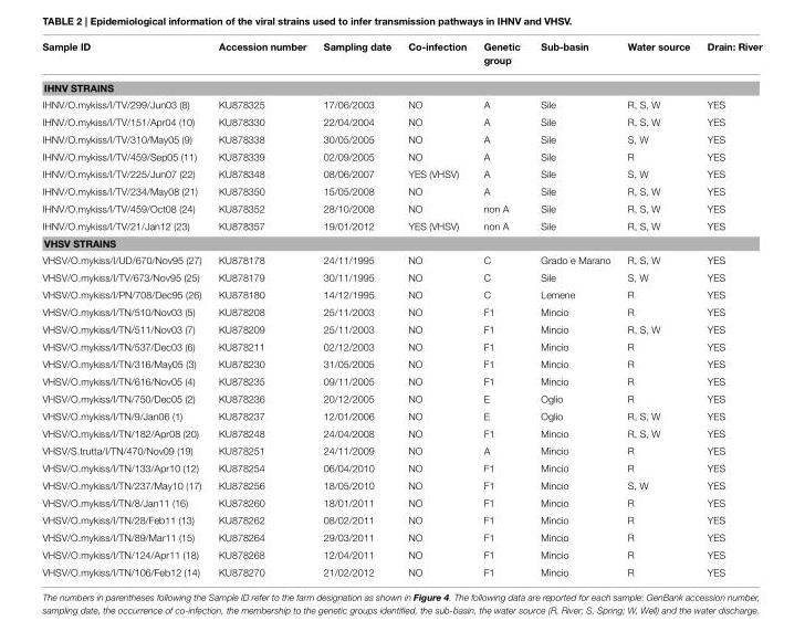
<table><thead><tr><td>Sample ID</td><td>Accession number</td><td>Sampling date</td><td>Co-infection</td><td>Genetic group</td><td>Sub-basin</td><td>Water source</td><td>Drain: River</td></tr></thead><tbody><tr><td colspan="8">IHNV STRAINS</td></tr><tr><td>IHNV/O.mykiss/I/TV/299/Jun03 (8)</td><td>KU878325</td><td>17/06/2003</td><td>NO</td><td>A</td><td>Sile</td><td>R, S, W</td><td>YES</td></tr><tr><td>IHNV/O.mykiss/I/TV/151/Apr04 (10)</td><td>KU878330</td><td>22/04/2004</td><td>NO</td><td>A</td><td>Sile</td><td>R, S, W</td><td>YES</td></tr><tr><td>IHNV/O.mykiss/I/TV/310/May05 (9)</td><td>KU878338</td><td>30/05/2005</td><td>NO</td><td>A</td><td>Sile</td><td>S, W</td><td>YES</td></tr><tr><td>IHNV/O.mykiss/I/TV/459/Sep05 (11)</td><td>KU878339</td><td>02/09/2005</td><td>NO</td><td>A</td><td>Sile</td><td>R</td><td>YES</td></tr><tr><td>IHNV/O.mykiss/I/TV/225/Jun07 (22)</td><td>KU878348</td><td>08/06/2007</td><td>YES (VHSV)</td><td>A</td><td>Sile</td><td>S, W</td><td>YES</td></tr><tr><td>IHNV/O.mykiss/I/TV/234/May08 (21)</td><td>KU878350</td><td>15/05/2008</td><td>NO</td><td>A</td><td>Sile</td><td>R, S, W</td><td>YES</td></tr><tr><td>IHNV/O.mykiss/I/TV/459/Oct08 (24)</td><td>KU878352</td><td>28/10/2008</td><td>NO</td><td>non A</td><td>Sile</td><td>R, S, W</td><td>YES</td></tr><tr><td>IHNV/O.mykiss/I/TV/21/Jan12 (23)</td><td>KU878357</td><td>19/01/2012</td><td>YES (VHSV)</td><td>non A</td><td>Sile</td><td>R, S, W</td><td>YES</td></tr><tr><td colspan="8">VHSV STRAINS</td></tr><tr><td>VHSV/O.mykiss/I/UD/670/Nov95 (27)</td><td>KU878178</td><td>24/11/1995</td><td>NO</td><td>C</td><td>Grado e Marano</td><td>R, S, W</td><td>YES</td></tr><tr><td>VHSV/O.mykiss/I/TV/673/Nov95 (25)</td><td>KU878179</td><td>30/11/1995</td><td>NO</td><td>C</td><td>Sile</td><td>S, W</td><td>YES</td></tr><tr><td>VHSV/O.mykiss/I/PN/708/Dec95 (26)</td><td>KU878180</td><td>14/12/1995</td><td>NO</td><td>C</td><td>Lemene</td><td>R</td><td>YES</td></tr><tr><td>VHSV/O.mykiss/I/TN/510/Nov03 (5)</td><td>KU878208</td><td>25/11/2003</td><td>NO</td><td>F1</td><td>Mincio</td><td>R</td><td>YES</td></tr><tr><td>VHSV/O.mykiss/I/TN/511/Nov03 (7)</td><td>KU878209</td><td>25/11/2003</td><td>NO</td><td>F1</td><td>Mincio</td><td>R, S, W</td><td>YES</td></tr><tr><td>VHSV/O.mykiss/I/TN/537/Dec03 (6)</td><td>KU878211</td><td>02/12/2003</td><td>NO</td><td>F1</td><td>Mincio</td><td>R</td><td>YES</td></tr><tr><td>VHSV/O.mykiss/I/TN/316/May05 (3)</td><td>KU878230</td><td>31/05/2005</td><td>NO</td><td>F1</td><td>Mincio</td><td>R</td><td>YES</td></tr><tr><td>VHSV/O.mykiss/I/TN/616/Nov05 (4)</td><td>KU878235</td><td>09/11/2005</td><td>NO</td><td>F1</td><td>Mincio</td><td>R</td><td>YES</td></tr><tr><td>VHSV/O.mykiss/I/TN/750/Dec05 (2)</td><td>KU878236</td><td>20/12/2005</td><td>NO</td><td>E</td><td>Oglio</td><td>R</td><td>YES</td></tr><tr><td>VHSV/O.mykiss/I/TN/9/Jan06 (1)</td><td>KU878237</td><td>12/01/2006</td><td>NO</td><td>E</td><td>Oglio</td><td>R, S, W</td><td>YES</td></tr><tr><td>VHSV/O.mykiss/I/TN/182/Apr08 (20)</td><td>KU878248</td><td>24/04/2008</td><td>NO</td><td>F1</td><td>Mincio</td><td>R, S, W</td><td>YES</td></tr><tr><td>VHSV/S.trutta/I/TN/470/Nov09 (19)</td><td>KU878251</td><td>24/11/2009</td><td>NO</td><td>A</td><td>Mincio</td><td>R</td><td>YES</td></tr><tr><td>VHSV/O.mykiss/I/TN/133/Apr10 (12)</td><td>KU878254</td><td>06/04/2010</td><td>NO</td><td>F1</td><td>Mincio</td><td>R</td><td>YES</td></tr><tr><td>VHSV/O.mykiss/I/TN/237/May10 (17)</td><td>KU878256</td><td>18/05/2010</td><td>NO</td><td>F1</td><td>Mincio</td><td>S, W</td><td>YES</td></tr><tr><td>VHSV/O.mykiss/I/TN/8/Jan11 (16)</td><td>KU878260</td><td>18/01/2011</td><td>NO</td><td>F1</td><td>Mincio</td><td>R</td><td>YES</td></tr><tr><td>VHSV/O.mykiss/I/TN/28/Feb11 (13)</td><td>KU878262</td><td>08/02/2011</td><td>NO</td><td>F1</td><td>Mincio</td><td>R</td><td>YES</td></tr><tr><td>VHSV/O.mykiss/I/TN/89/Mar11 (15)</td><td>KU878264</td><td>29/03/2011</td><td>NO</td><td>F1</td><td>Mincio</td><td>R</td><td>YES</td></tr><tr><td>VHSV/O.mykiss/I/TN/124/Apr11 (18)</td><td>KU878268</td><td>12/04/2011</td><td>NO</td><td>F1</td><td>Mincio</td><td>R</td><td>YES</td></tr><tr><td>VHSV/O.mykiss/I/TN/106/Feb12 (14)</td><td>KU878270</td><td>21/02/2012</td><td>NO</td><td>F1</td><td>Mincio</td><td>R</td><td>YES</td></tr></tbody></table>